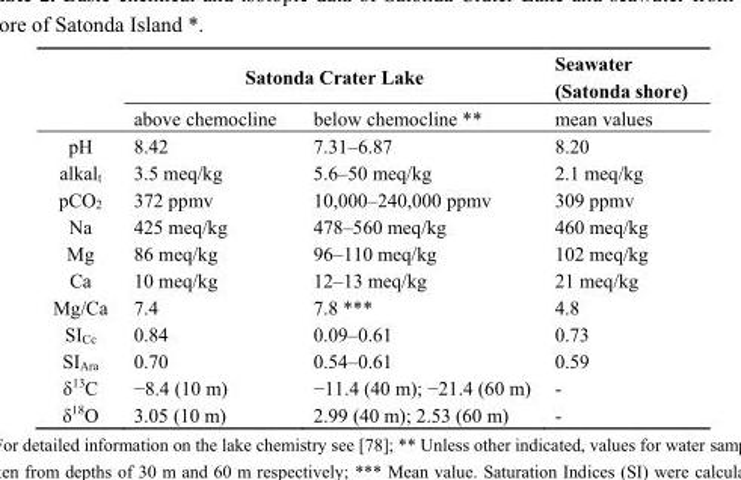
<table><thead><tr><td rowspan="2"></td><td colspan="2">Satonda Crater Lake</td><td rowspan="2">Seawater (Satonda shore) mean values</td></tr><tr><td>above chemocline</td><td>below chemocline **</td></tr></thead><tbody><tr><td>pH</td><td>8.42</td><td>7.31–6.87</td><td>8.20</td></tr><tr><td>alkal<sub>t</sub></td><td>3.5 meq/kg</td><td>5.6–50 meq/kg</td><td>2.1 meq/kg</td></tr><tr><td>pCO<sub>2</sub></td><td>372 ppmv</td><td>10,000–240,000 ppmv</td><td>309 ppmv</td></tr><tr><td>Na</td><td>425 meq/kg</td><td>478–560 meq/kg</td><td>460 meq/kg</td></tr><tr><td>Mg</td><td>86 meq/kg</td><td>96–110 meq/kg</td><td>102 meq/kg</td></tr><tr><td>Ca</td><td>10 meq/kg</td><td>12–13 meq/kg</td><td>21 meq/kg</td></tr><tr><td>Mg/Ca</td><td>7.4</td><td>7.8 ***</td><td>4.8</td></tr><tr><td>SI<sub>Cc</sub></td><td>0.84</td><td>0.09–0.61</td><td>0.73</td></tr><tr><td>SI<sub>Ara</sub></td><td>0.70</td><td>0.54–0.61</td><td>0.59</td></tr><tr><td>δ<sup>13</sup>C</td><td>−8.4 (10 m)</td><td>−11.4 (40 m); −21.4 (60 m)</td><td>-</td></tr><tr><td>δ<sup>18</sup>O</td><td>3.05 (10 m)</td><td>2.99 (40 m); 2.53 (60 m)</td><td>-</td></tr></tbody></table>